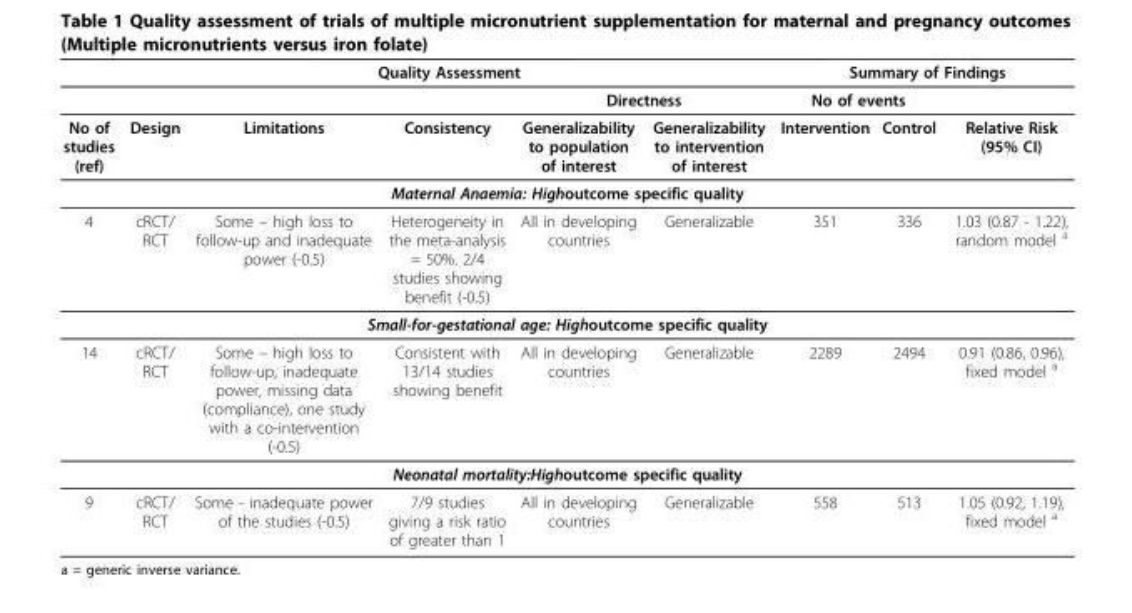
<table><thead><tr><td rowspan="3">No of studies (ref)</td><td colspan="5">Quality Assessment</td><td colspan="3">Summary of Findings</td></tr><tr><td rowspan="2">Design</td><td rowspan="2">Limitations</td><td rowspan="2">Consistency</td><td colspan="2">Directness</td><td colspan="2">No of events</td><td rowspan="2">Relative Risk (95% CI)</td></tr><tr><td>Generalizability to population of interest</td><td>Generalizability to intervention of interest</td><td>Intervention</td><td>Control</td></tr></thead><tbody><tr><td colspan="9">Maternal Anaemia: Highoutcome specific quality</td></tr><tr><td>4</td><td>cRCT/ RCT</td><td>Some – high loss to follow-up and inadequate power (-0.5)</td><td>Heterogeneity in the meta-analysis = 50%. 2/4 studies showing benefit (-0.5)</td><td>All in developing countries</td><td>Generalizable</td><td>351</td><td>336</td><td>1.03 (0.87 - 1.22), random model <sup>a</sup></td></tr><tr><td colspan="9">Small-for-gestational age: Highoutcome specific quality</td></tr><tr><td>14</td><td>cRCT/ RCT</td><td>Some – high loss to follow-up, inadequate power, missing data (compliance), one study with a co-intervention (-0.5)</td><td>Consistent with 13/14 studies showing benefit</td><td>All in developing countries</td><td>Generalizable</td><td>2289</td><td>2494</td><td>0.91 (0.86, 0.96), fixed model <sup>a</sup></td></tr><tr><td colspan="9">Neonatal mortality:Highoutcome specific quality</td></tr><tr><td>9</td><td>cRCT/ RCT</td><td>Some - inadequate power of the studies (-0.5)</td><td>7/9 studies giving a risk ratio of greater than 1</td><td>All in developing countries</td><td>Generalizable</td><td>558</td><td>513</td><td>1.05 (0.92, 1.19), fixed model <sup>a</sup></td></tr></tbody></table>